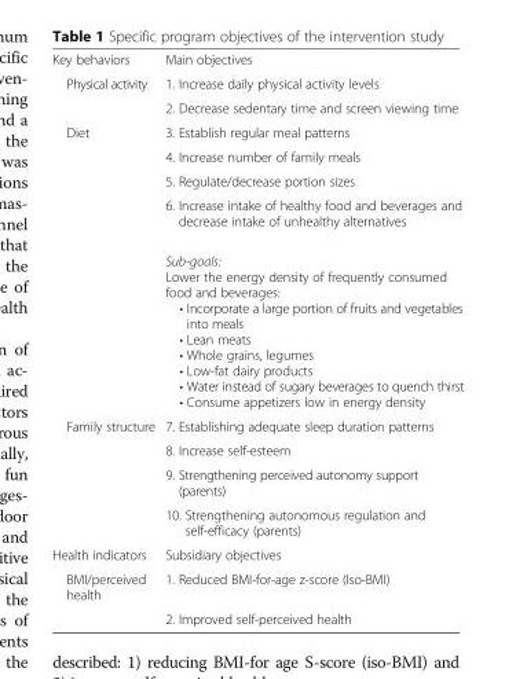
<table><tbody><tr><td>Key behaviors</td><td>Main objectives</td></tr><tr><td rowspan="2">Physical activity</td><td>1. Increase daily physical activity levels</td></tr><tr><td>2. Decrease sedentary time and screen viewing time</td></tr><tr><td rowspan="5">Diet</td><td>3. Establish regular meal patterns</td></tr><tr><td>4. Increase number of family meals</td></tr><tr><td>5. Regulate/decrease portion sizes</td></tr><tr><td>6. Increase intake of healthy food and beverages and decrease intake of unhealthy alternatives</td></tr><tr><td>Sub-goals: Lower the energy density of frequently consumed food and beverages: • Incorporate a large portion of fruits and vegetables into meals • Lean meats • Whole grains, legumes • Low-fat dairy products • Water instead of sugary beverages to quench thirst • Consume appetizers low in energy density</td></tr><tr><td rowspan="4">Family structure</td><td>7. Establishing adequate sleep duration patterns</td></tr><tr><td>8. Increase self-esteem</td></tr><tr><td>9. Strengthening perceived autonomy support (parents)</td></tr><tr><td>10. Strengthening autonomous regulation and self-efficacy (parents)</td></tr><tr><td>Health indicators</td><td>Subsidiary objectives</td></tr><tr><td rowspan="2">BMI/perceived health</td><td>1. Reduced BMI-for-age z-score (Iso-BMI)</td></tr><tr><td>2. Improved self-perceived health</td></tr></tbody></table>